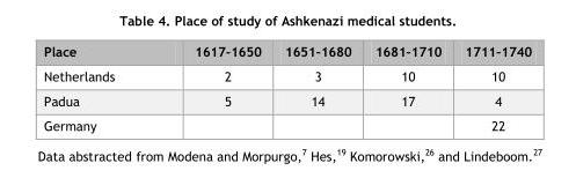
<table><thead><tr><td>Place</td><td>1617–1650</td><td>1651–1680</td><td>1681–1710</td><td>1711–1740</td></tr></thead><tbody><tr><td>Netherlands</td><td>2</td><td>3</td><td>10</td><td>10</td></tr><tr><td>Padua</td><td>5</td><td>14</td><td>17</td><td>4</td></tr><tr><td>Germany</td><td></td><td></td><td></td><td>22</td></tr></tbody></table>